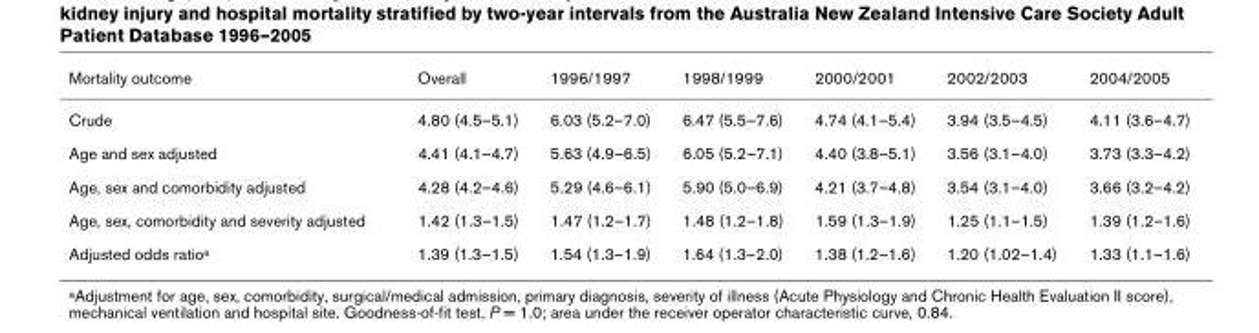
<table><thead><tr><td>Mortality outcome</td><td>Overall</td><td>1996/1997</td><td>1998/1999</td><td>2000/2001</td><td>2002/2003</td><td>2004/2005</td></tr></thead><tbody><tr><td>Crude</td><td>4.80 (4.5–5.1)</td><td>6.03 (5.2–7.0)</td><td>6.47 (5.5–7.6)</td><td>4.74 (4.1–5.4)</td><td>3.94 (3.5–4.5)</td><td>4.11 (3.6–4.7)</td></tr><tr><td>Age and sex adjusted</td><td>4.41 (4.1–4.7)</td><td>5.63 (4.9–6.5)</td><td>6.05 (5.2–7.1)</td><td>4.40 (3.8–5.1)</td><td>3.56 (3.1–4.0)</td><td>3.73 (3.3–4.2)</td></tr><tr><td>Age, sex and comorbidity adjusted</td><td>4.28 (4.2–4.6)</td><td>5.29 (4.6–6.1)</td><td>5.90 (5.0–6.9)</td><td>4.21 (3.7–4.8)</td><td>3.54 (3.1–4.0)</td><td>3.66 (3.2–4.2)</td></tr><tr><td>Age, sex, comorbidity and severity adjusted</td><td>1.42 (1.3–1.5)</td><td>1.47 (1.2–1.7)</td><td>1.48 (1.2–1.8)</td><td>1.59 (1.3–1.9)</td><td>1.25 (1.1–1.5)</td><td>1.39 (1.2–1.6)</td></tr><tr><td>Adjusted odds ratio<sup>a</sup></td><td>1.39 (1.3–1.5)</td><td>1.54 (1.3–1.9)</td><td>1.64 (1.3–2.0)</td><td>1.38 (1.2–1.6)</td><td>1.20 (1.02–1.4)</td><td>1.33 (1.1–1.6)</td></tr></tbody></table>